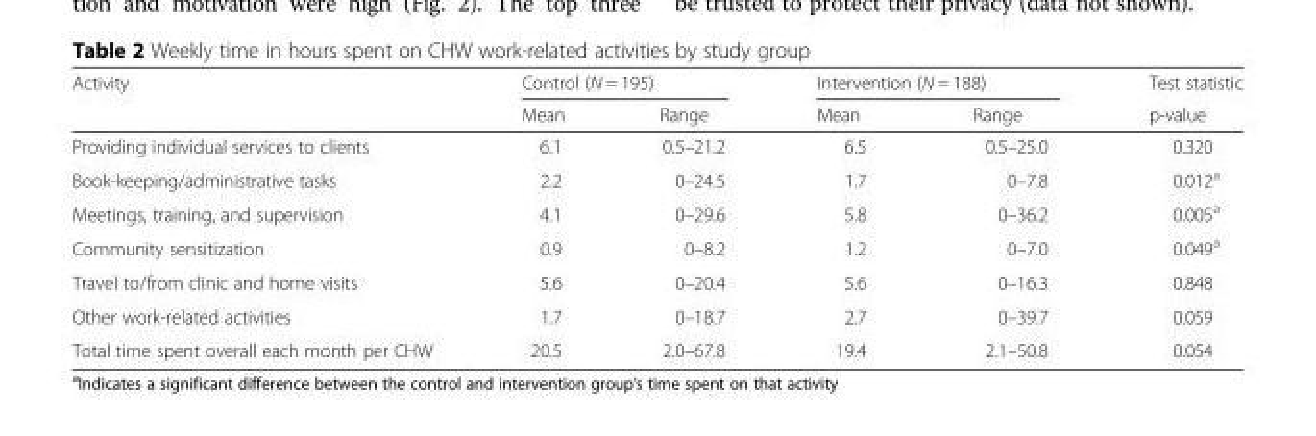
<table><thead><tr><td rowspan="2">Activity</td><td colspan="2">Control (N = 195)</td><td colspan="2">Intervention (N = 188)</td><td rowspan="2">Test statistic p-value</td></tr><tr><td>Mean</td><td>Range</td><td>Mean</td><td>Range</td></tr></thead><tbody><tr><td>Providing individual services to clients</td><td>6.1</td><td>0.5–21.2</td><td>6.5</td><td>0.5–25.0</td><td>0.320</td></tr><tr><td>Book-keeping/administrative tasks</td><td>2.2</td><td>0–24.5</td><td>1.7</td><td>0–7.8</td><td>0.012<sup>a</sup></td></tr><tr><td>Meetings, training, and supervision</td><td>4.1</td><td>0–29.6</td><td>5.8</td><td>0–36.2</td><td>0.005<sup>a</sup></td></tr><tr><td>Community sensitization</td><td>0.9</td><td>0–8.2</td><td>1.2</td><td>0–7.0</td><td>0.049<sup>a</sup></td></tr><tr><td>Travel to/from clinic and home visits</td><td>5.6</td><td>0–20.4</td><td>5.6</td><td>0–16.3</td><td>0.848</td></tr><tr><td>Other work-related activities</td><td>1.7</td><td>0–18.7</td><td>2.7</td><td>0–39.7</td><td>0.059</td></tr><tr><td>Total time spent overall each month per CHW</td><td>20.5</td><td>2.0–67.8</td><td>19.4</td><td>2.1–50.8</td><td>0.054</td></tr></tbody></table>